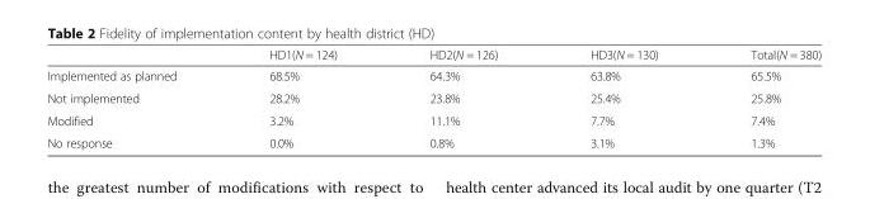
<table><thead><tr><td></td><td>HD1(N = 124)</td><td>HD2(N = 126)</td><td>HD3(N = 130)</td><td>Total(N = 380)</td></tr></thead><tbody><tr><td>Implemented as planned</td><td>68.5%</td><td>64.3%</td><td>63.8%</td><td>65.5%</td></tr><tr><td>Not implemented</td><td>28.2%</td><td>23.8%</td><td>25.4%</td><td>25.8%</td></tr><tr><td>Modified</td><td>3.2%</td><td>11.1%</td><td>7.7%</td><td>7.4%</td></tr><tr><td>No response</td><td>0.0%</td><td>0.8%</td><td>3.1%</td><td>1.3%</td></tr></tbody></table>